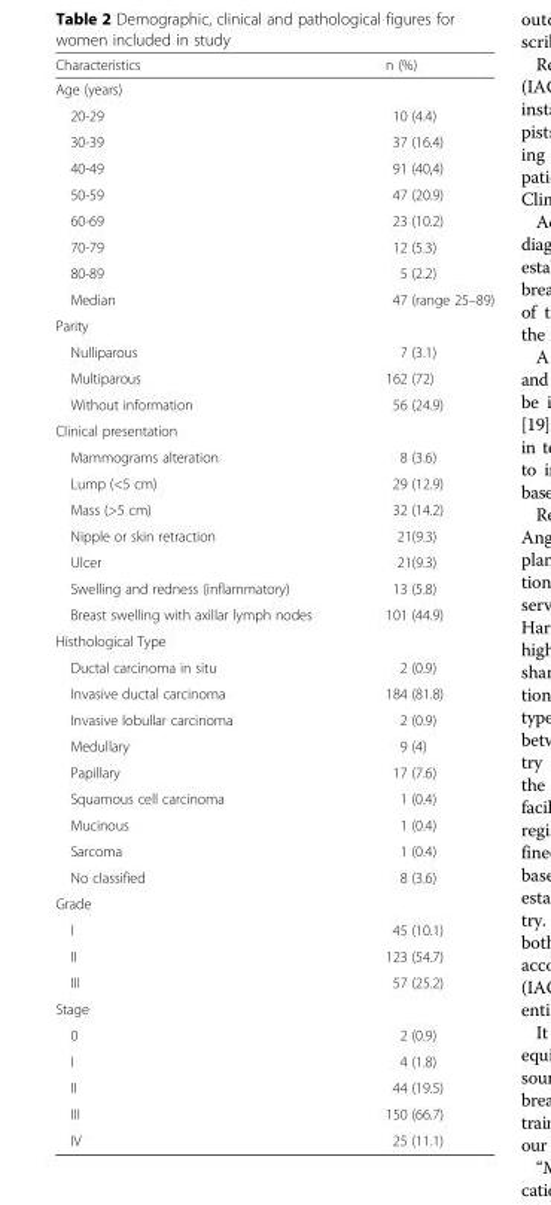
<table><thead><tr><td>Characteristics</td><td>n (%)</td></tr></thead><tbody><tr><td colspan="2">Age (years)</td></tr><tr><td>20-29</td><td>10 (4.4)</td></tr><tr><td>30-39</td><td>37 (16.4)</td></tr><tr><td>40-49</td><td>91 (40,4)</td></tr><tr><td>50-59</td><td>47 (20.9)</td></tr><tr><td>60-69</td><td>23 (10.2)</td></tr><tr><td>70-79</td><td>12 (5.3)</td></tr><tr><td>80-89</td><td>5 (2.2)</td></tr><tr><td>Median</td><td>47 (range 25–89)</td></tr><tr><td colspan="2">Parity</td></tr><tr><td>Nulliparous</td><td>7 (3.1)</td></tr><tr><td>Multiparous</td><td>162 (72)</td></tr><tr><td>Without information</td><td>56 (24.9)</td></tr><tr><td colspan="2">Clinical presentation</td></tr><tr><td>Mammograms alteration</td><td>8 (3.6)</td></tr><tr><td>Lump (&lt;5 cm)</td><td>29 (12.9)</td></tr><tr><td>Mass (&gt;5 cm)</td><td>32 (14.2)</td></tr><tr><td>Nipple or skin retraction</td><td>21(9.3)</td></tr><tr><td>Ulcer</td><td>21(9.3)</td></tr><tr><td>Swelling and redness (inflammatory)</td><td>13 (5.8)</td></tr><tr><td>Breast swelling with axillar lymph nodes</td><td>101 (44.9)</td></tr><tr><td colspan="2">Histhological Type</td></tr><tr><td>Ductal carcinoma in situ</td><td>2 (0.9)</td></tr><tr><td>Invasive ductal carcinoma</td><td>184 (81.8)</td></tr><tr><td>Invasive lobullar carcinoma</td><td>2 (0.9)</td></tr><tr><td>Medullary</td><td>9 (4)</td></tr><tr><td>Papillary</td><td>17 (7.6)</td></tr><tr><td>Squamous cell carcinoma</td><td>1 (0.4)</td></tr><tr><td>Mucinous</td><td>1 (0.4)</td></tr><tr><td>Sarcoma</td><td>1 (0.4)</td></tr><tr><td>No classified</td><td>8 (3.6)</td></tr><tr><td colspan="2">Grade</td></tr><tr><td>I</td><td>45 (10.1)</td></tr><tr><td>II</td><td>123 (54.7)</td></tr><tr><td>III</td><td>57 (25.2)</td></tr><tr><td colspan="2">Stage</td></tr><tr><td>0</td><td>2 (0.9)</td></tr><tr><td>I</td><td>4 (1.8)</td></tr><tr><td>II</td><td>44 (19.5)</td></tr><tr><td>III</td><td>150 (66.7)</td></tr><tr><td>IV</td><td>25 (11.1)</td></tr></tbody></table>